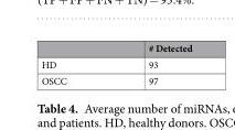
<table><thead><tr><td></td><td># Detected</td></tr></thead><tbody><tr><td>HD</td><td>93</td></tr><tr><td>OSCC</td><td>97</td></tr></tbody></table>